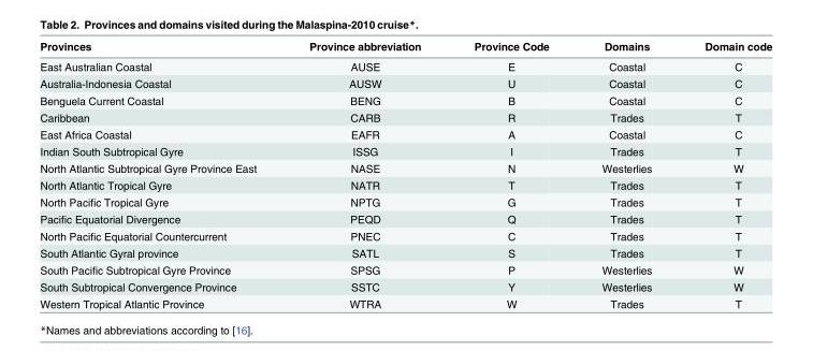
<table><thead><tr><td>Provinces</td><td>Province abbreviation</td><td>Province Code</td><td>Domains</td><td>Domain code</td></tr></thead><tbody><tr><td>East Australian Coastal</td><td>AUSE</td><td>E</td><td>Coastal</td><td>C</td></tr><tr><td>Australia-Indonesia Coastal</td><td>AUSW</td><td>U</td><td>Coastal</td><td>C</td></tr><tr><td>Benguela Current Coastal</td><td>BENG</td><td>B</td><td>Coastal</td><td>C</td></tr><tr><td>Caribbean</td><td>CARB</td><td>R</td><td>Trades</td><td>T</td></tr><tr><td>East Africa Coastal</td><td>EAFR</td><td>A</td><td>Coastal</td><td>C</td></tr><tr><td>Indian South Subtropical Gyre</td><td>ISSG</td><td>I</td><td>Trades</td><td>T</td></tr><tr><td>North Atlantic Subtropical Gyre Province East</td><td>NASE</td><td>N</td><td>Westerlies</td><td>W</td></tr><tr><td>North Atlantic Tropical Gyre</td><td>NATR</td><td>T</td><td>Trades</td><td>T</td></tr><tr><td>North Pacific Tropical Gyre</td><td>NPTG</td><td>G</td><td>Trades</td><td>T</td></tr><tr><td>Pacific Equatorial Divergence</td><td>PEQD</td><td>Q</td><td>Trades</td><td>T</td></tr><tr><td>North Pacific Equatorial Countercurrent</td><td>PNEC</td><td>C</td><td>Trades</td><td>T</td></tr><tr><td>South Atlantic Gyral province</td><td>SATL</td><td>S</td><td>Trades</td><td>T</td></tr><tr><td>South Pacific Subtropical Gyre Province</td><td>SPSG</td><td>P</td><td>Westerlies</td><td>W</td></tr><tr><td>South Subtropical Convergence Province</td><td>SSTC</td><td>Y</td><td>Westerlies</td><td>W</td></tr><tr><td>Western Tropical Atlantic Province</td><td>WTRA</td><td>W</td><td>Trades</td><td>T</td></tr></tbody></table>